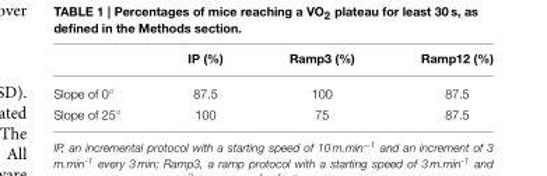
<table><thead><tr><td></td><td>IP (%)</td><td>Ramp3 (%)</td><td>Ramp12 (%)</td></tr></thead><tbody><tr><td>Slope of 0◦</td><td>87.5</td><td>100</td><td>87.5</td></tr><tr><td>Slope of 25◦</td><td>100</td><td>75</td><td>87.5</td></tr></tbody></table>